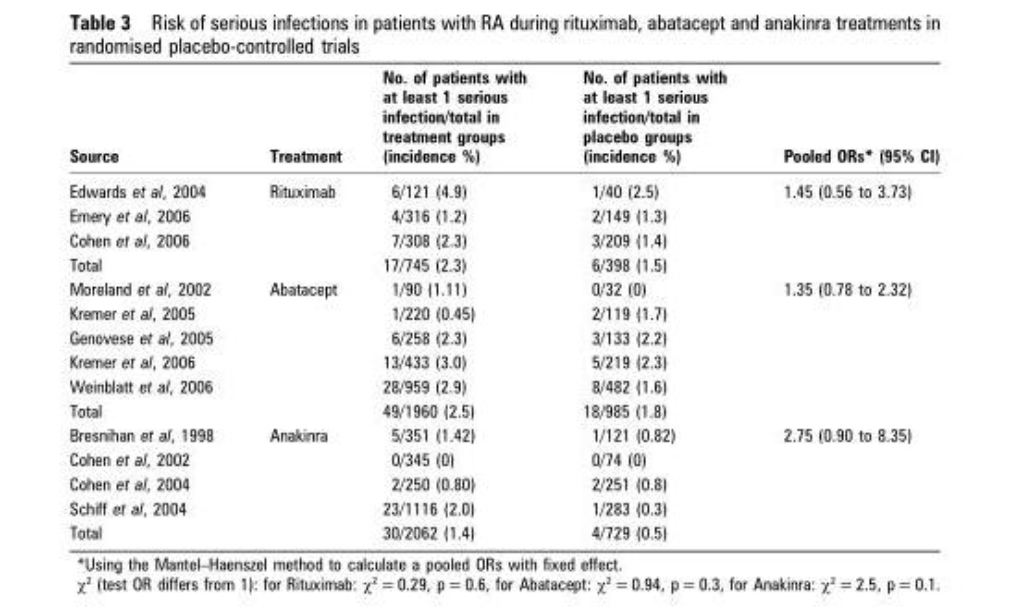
<table><thead><tr><td>Source</td><td>Treatment</td><td>No. of patients with at least 1 serious infection/total in treatment groups (incidence %)</td><td>No. of patients with at least 1 serious infection/total in placebo groups (incidence %)</td><td>Pooled ORs* (95% CI)</td></tr></thead><tbody><tr><td>Edwards et al, 2004</td><td rowspan="4">Rituximab</td><td>6/121 (4.9)</td><td>1/40 (2.5)</td><td rowspan="4">1.45 (0.56 to 3.73)</td></tr><tr><td>Emery et al, 2006</td><td>4/316 (1.2)</td><td>2/149 (1.3)</td></tr><tr><td>Cohen et al, 2006</td><td>7/308 (2.3)</td><td>3/209 (1.4)</td></tr><tr><td>Total</td><td>17/745 (2.3)</td><td>6/398 (1.5)</td></tr><tr><td>Moreland et al, 2002</td><td rowspan="6">Abatacept</td><td>1/90 (1.11)</td><td>0/32 (0)</td><td rowspan="6">1.35 (0.78 to 2.32)</td></tr><tr><td>Kremer et al, 2005</td><td>1/220 (0.45)</td><td>2/119 (1.7)</td></tr><tr><td>Genovese et al, 2005</td><td>6/258 (2.3)</td><td>3/133 (2.2)</td></tr><tr><td>Kremer et al, 2006</td><td>13/433 (3.0)</td><td>5/219 (2.3)</td></tr><tr><td>Weinblatt et al, 2006</td><td>28/959 (2.9)</td><td>8/482 (1.6)</td></tr><tr><td>Total</td><td>49/1960 (2.5)</td><td>18/985 (1.8)</td></tr><tr><td>Bresnihan et al, 1998</td><td rowspan="5">Anakinra</td><td>5/351 (1.42)</td><td>1/121 (0.82)</td><td rowspan="5">2.75 (0.90 to 8.35)</td></tr><tr><td>Cohen et al, 2002</td><td>0/345 (0)</td><td>0/74 (0)</td></tr><tr><td>Cohen et al, 2004</td><td>2/250 (0.80)</td><td>2/251 (0.8)</td></tr><tr><td>Schiff et al, 2004</td><td>23/1116 (2.0)</td><td>1/283 (0.3)</td></tr><tr><td>Total</td><td>30/2062 (1.4)</td><td>4/729 (0.5)</td></tr></tbody></table>